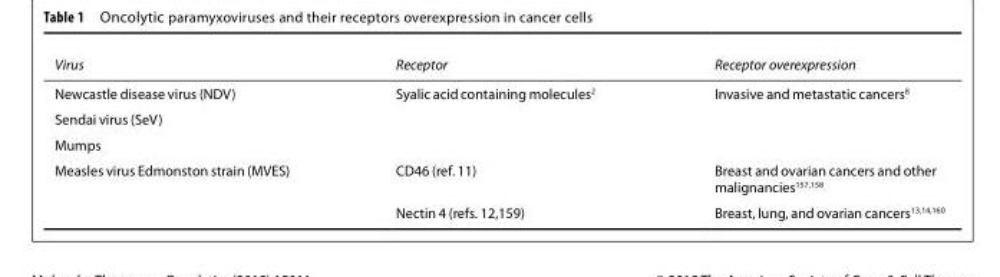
<table><thead><tr><td>Virus</td><td>Receptor</td><td>Receptor overexpression</td></tr></thead><tbody><tr><td>Newcastle disease virus (NDV)</td><td>Syalic acid containing molecules<sup>2</sup></td><td>Invasive and metastatic cancers<sup>8</sup></td></tr><tr><td colspan="3">Sendai virus (SeV)</td></tr><tr><td colspan="3">Mumps</td></tr><tr><td rowspan="2">Measles virus Edmonston strain (MVES)</td><td>CD46 (ref. 11)</td><td>Breast and ovarian cancers and other malignancies<sup>157,158</sup></td></tr><tr><td>Nectin 4 (refs. 12,159)</td><td>Breast, lung, and ovarian cancers<sup>13,14,160</sup></td></tr></tbody></table>